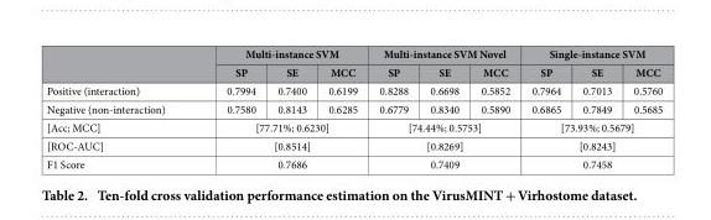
<table><thead><tr><td rowspan="2"></td><td colspan="3">Multi-instance SVM</td><td colspan="3">Multi-instance SVM Novel</td><td colspan="3">Single-instance SVM</td></tr><tr><td>SP</td><td>SE</td><td>MCC</td><td>SP</td><td>SE</td><td>MCC</td><td>SP</td><td>SE</td><td>MCC</td></tr></thead><tbody><tr><td>Positive (interaction)</td><td>0.7994</td><td>0.7400</td><td>0.6199</td><td>0.8288</td><td>0.6698</td><td>0.5852</td><td>0.7964</td><td>0.7013</td><td>0.5760</td></tr><tr><td>Negative (non-interaction)</td><td>0.7580</td><td>0.8143</td><td>0.6285</td><td>0.6779</td><td>0.8340</td><td>0.5890</td><td>0.6865</td><td>0.7849</td><td>0.5685</td></tr><tr><td>[Acc; MCC]</td><td colspan="3">[77.71%; 0.6230]</td><td colspan="3">[74.44%; 0.5753]</td><td colspan="3">[73.93%; 0.5679]</td></tr><tr><td>[ROC-AUC]</td><td colspan="3">[0.8514]</td><td colspan="3">[0.8269]</td><td colspan="3">[0.8243]</td></tr><tr><td>F1 Score</td><td colspan="3">0.7686</td><td colspan="3">0.7409</td><td colspan="3">0.7458</td></tr></tbody></table>